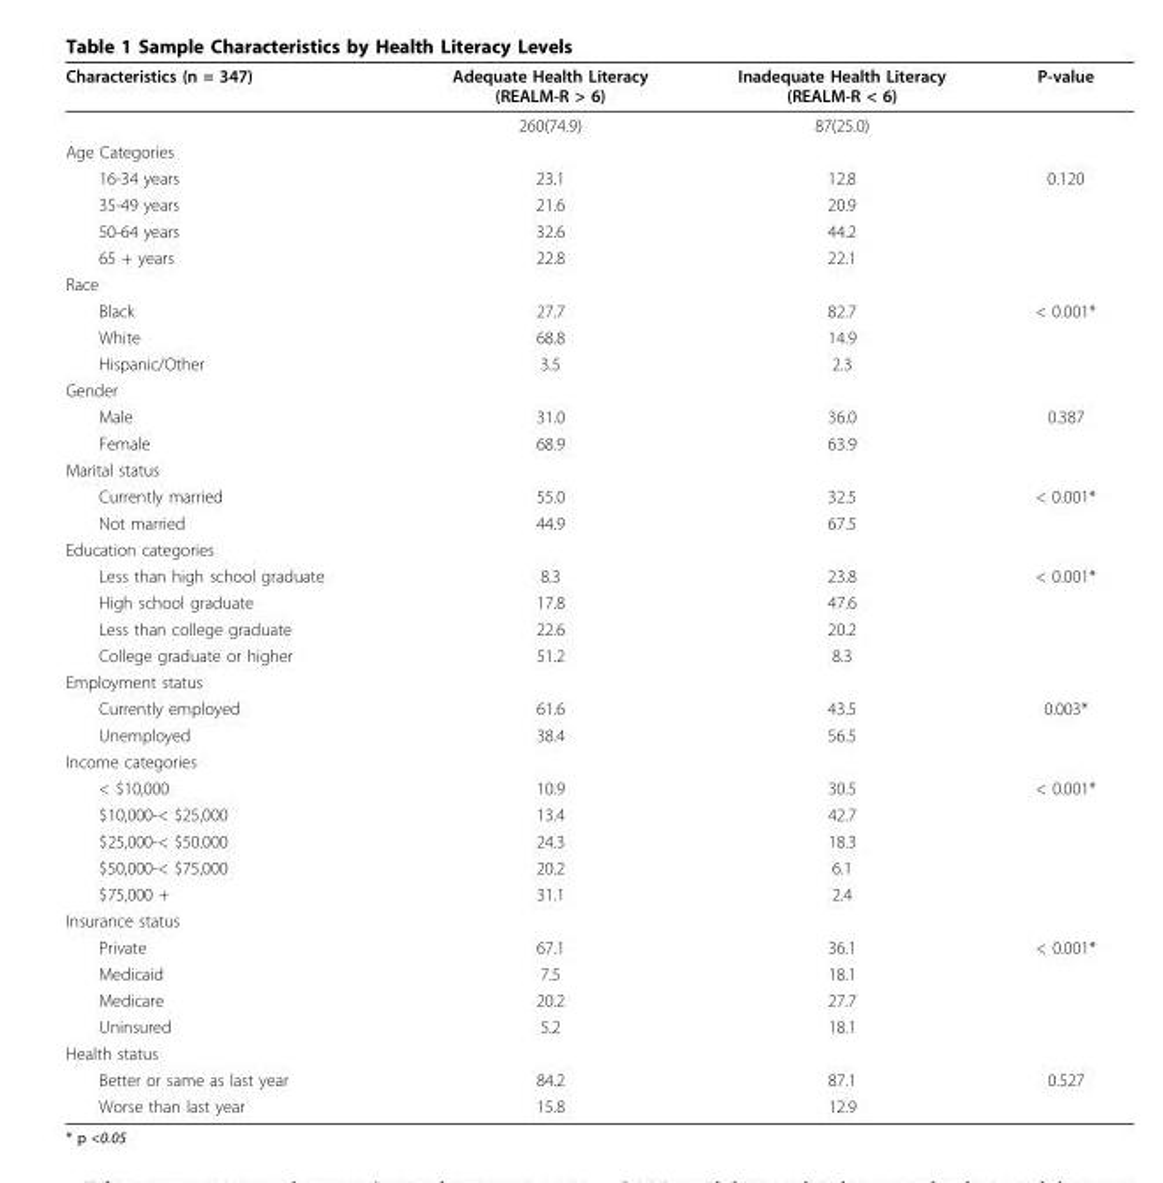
<table><thead><tr><td>Characteristics (n = 347)</td><td>Adequate Health Literacy (REALM-R &gt; 6)</td><td>Inadequate Health Literacy (REALM-R &lt; 6)</td><td>P-value</td></tr></thead><tbody><tr><td></td><td>260(74.9)</td><td>87(25.0)</td><td></td></tr><tr><td colspan="4">Age Categories</td></tr><tr><td>16-34 years</td><td>23.1</td><td>12.8</td><td>0.120</td></tr><tr><td>35-49 years</td><td>21.6</td><td>20.9</td><td></td></tr><tr><td>50-64 years</td><td>32.6</td><td>44.2</td><td></td></tr><tr><td>65 + years</td><td>22.8</td><td>22.1</td><td></td></tr><tr><td colspan="4">Race</td></tr><tr><td>Black</td><td>27.7</td><td>82.7</td><td>&lt; 0.001*</td></tr><tr><td>White</td><td>68.8</td><td>14.9</td><td></td></tr><tr><td>Hispanic/Other</td><td>3.5</td><td>2.3</td><td></td></tr><tr><td colspan="4">Gender</td></tr><tr><td>Male</td><td>31.0</td><td>36.0</td><td>0.387</td></tr><tr><td>Female</td><td>68.9</td><td>63.9</td><td></td></tr><tr><td colspan="4">Marital status</td></tr><tr><td>Currently married</td><td>55.0</td><td>32.5</td><td>&lt; 0.001*</td></tr><tr><td>Not married</td><td>44.9</td><td>67.5</td><td></td></tr><tr><td colspan="4">Education categories</td></tr><tr><td>Less than high school graduate</td><td>8.3</td><td>23.8</td><td>&lt; 0.001*</td></tr><tr><td>High school graduate</td><td>17.8</td><td>47.6</td><td></td></tr><tr><td>Less than college graduate</td><td>22.6</td><td>20.2</td><td></td></tr><tr><td>College graduate or higher</td><td>51.2</td><td>8.3</td><td></td></tr><tr><td colspan="4">Employment status</td></tr><tr><td>Currently employed</td><td>61.6</td><td>43.5</td><td>0.003*</td></tr><tr><td>Unemployed</td><td>38.4</td><td>56.5</td><td></td></tr><tr><td colspan="4">Income categories</td></tr><tr><td>&lt; $10,000</td><td>10.9</td><td>30.5</td><td>&lt; 0.001*</td></tr><tr><td>$10,000-&lt; $25,000</td><td>13.4</td><td>42.7</td><td></td></tr><tr><td>$25,000-&lt; $50.000</td><td>24.3</td><td>18.3</td><td></td></tr><tr><td>$50,000-&lt; $75,000</td><td>20.2</td><td>6.1</td><td></td></tr><tr><td>$75,000 +</td><td>31.1</td><td>2.4</td><td></td></tr><tr><td colspan="4">Insurance status</td></tr><tr><td>Private</td><td>67.1</td><td>36.1</td><td>&lt; 0.001*</td></tr><tr><td>Medicaid</td><td>7.5</td><td>18.1</td><td></td></tr><tr><td>Medicare</td><td>20.2</td><td>27.7</td><td></td></tr><tr><td>Uninsured</td><td>5.2</td><td>18.1</td><td></td></tr><tr><td colspan="4">Health status</td></tr><tr><td>Better or same as last year</td><td>84.2</td><td>87.1</td><td>0.527</td></tr><tr><td>Worse than last year</td><td>15.8</td><td>12.9</td><td></td></tr></tbody></table>